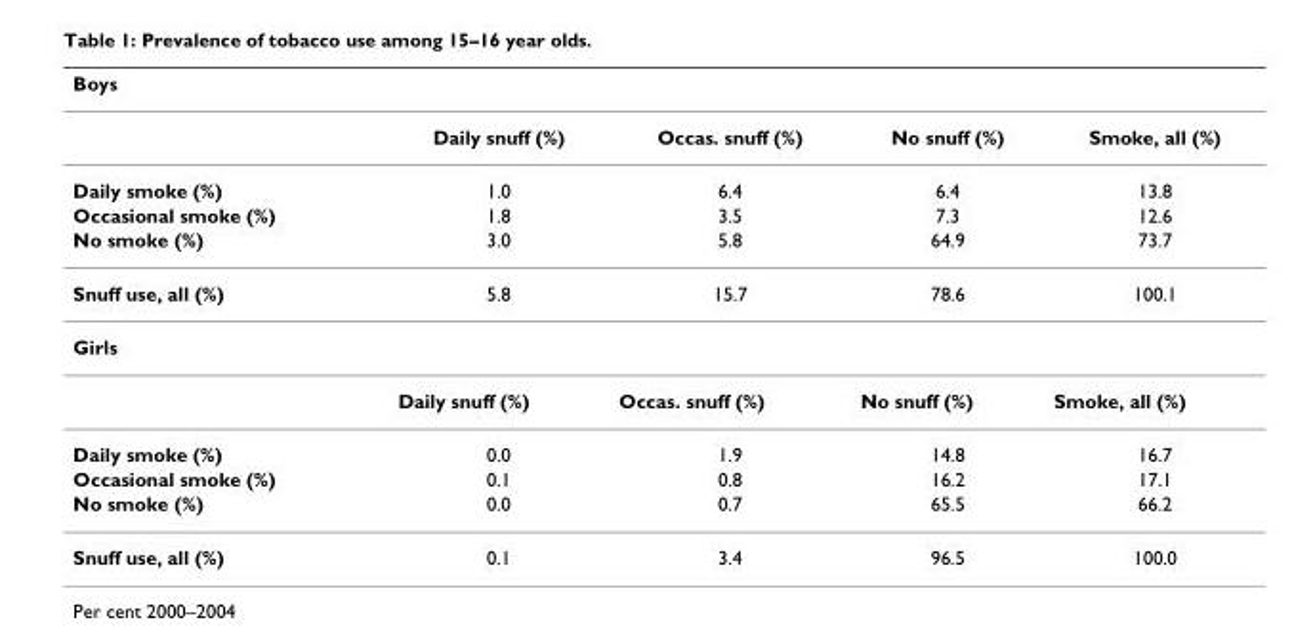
<table><thead><tr><td colspan="5">Boys</td></tr><tr><td></td><td>Daily snuff (%)</td><td>Occas. snuff (%)</td><td>No snuff (%)</td><td>Smoke, all (%)</td></tr></thead><tbody><tr><td>Daily smoke (%)</td><td>1.0</td><td>6.4</td><td>6.4</td><td>13.8</td></tr><tr><td>Occasional smoke (%)</td><td>1.8</td><td>3.5</td><td>7.3</td><td>12.6</td></tr><tr><td>No smoke (%)</td><td>3.0</td><td>5.8</td><td>64.9</td><td>73.7</td></tr><tr><td>Snuff use, all (%)</td><td>5.8</td><td>15.7</td><td>78.6</td><td>100.1</td></tr><tr><td colspan="5">Girls</td></tr><tr><td></td><td>Daily snuff (%)</td><td>Occas. snuff (%)</td><td>No snuff (%)</td><td>Smoke, all (%)</td></tr><tr><td>Daily smoke (%)</td><td>0.0</td><td>1.9</td><td>14.8</td><td>16.7</td></tr><tr><td>Occasional smoke (%)</td><td>0.1</td><td>0.8</td><td>16.2</td><td>17.1</td></tr><tr><td>No smoke (%)</td><td>0.0</td><td>0.7</td><td>65.5</td><td>66.2</td></tr><tr><td>Snuff use, all (%)</td><td>0.1</td><td>3.4</td><td>96.5</td><td>100.0</td></tr></tbody></table>